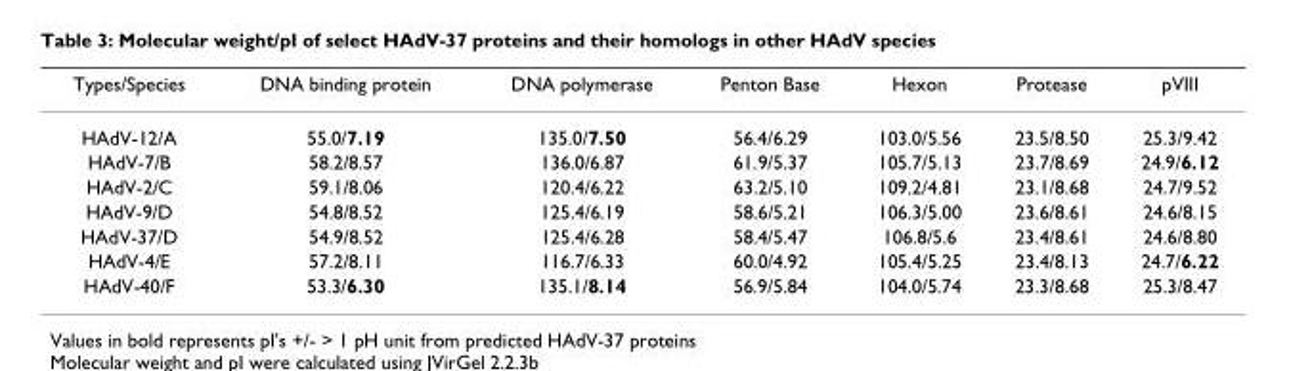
<table><thead><tr><td>Types/Species</td><td>DNA binding protein</td><td>DNA polymerase</td><td>Penton Base</td><td>Hexon</td><td>Protease</td><td>pVIII</td></tr></thead><tbody><tr><td>HAdV-12/A</td><td>55.0/7.19</td><td>135.0/7.50</td><td>56.4/6.29</td><td>103.0/5.56</td><td>23.5/8.50</td><td>25.3/9.42</td></tr><tr><td>HAdV-7/B</td><td>58.2/8.57</td><td>136.0/6.87</td><td>61.9/5.37</td><td>105.7/5.13</td><td>23.7/8.69</td><td>24.9/6.12</td></tr><tr><td>HAdV-2/C</td><td>59.1/8.06</td><td>120.4/6.22</td><td>63.2/5.10</td><td>109.2/4.81</td><td>23.1/8.68</td><td>24.7/9.52</td></tr><tr><td>HAdV-9/D</td><td>54.8/8.52</td><td>125.4/6.19</td><td>58.6/5.21</td><td>106.3/5.00</td><td>23.6/8.61</td><td>24.6/8.15</td></tr><tr><td>HAdV-37/D</td><td>54.9/8.52</td><td>125.4/6.28</td><td>58.4/5.47</td><td>106.8/5.6</td><td>23.4/8.61</td><td>24.6/8.80</td></tr><tr><td>HAdV-4/E</td><td>57.2/8.11</td><td>116.7/6.33</td><td>60.0/4.92</td><td>105.4/5.25</td><td>23.4/8.13</td><td>24.7/6.22</td></tr><tr><td>HAdV-40/F</td><td>53.3/6.30</td><td>135.1/8.14</td><td>56.9/5.84</td><td>104.0/5.74</td><td>23.3/8.68</td><td>25.3/8.47</td></tr></tbody></table>